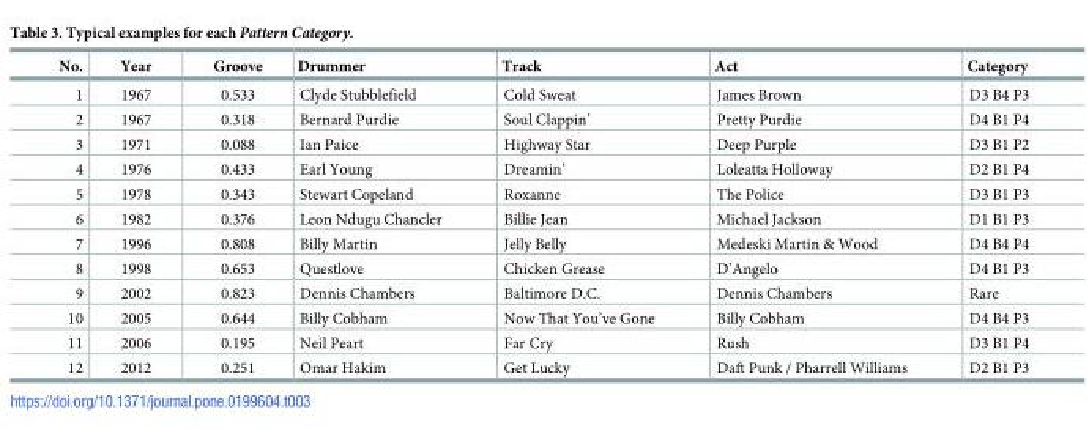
<table><thead><tr><td>No.</td><td>Year</td><td>Groove</td><td>Drummer</td><td>Track</td><td>Act</td><td>Category</td></tr></thead><tbody><tr><td>1</td><td>1967</td><td>0.533</td><td>Clyde Stubblefield</td><td>Cold Sweat</td><td>James Brown</td><td>D3 B4 P3</td></tr><tr><td>2</td><td>1967</td><td>0.318</td><td>Bernard Purdie</td><td>Soul Clappin’</td><td>Pretty Purdie</td><td>D4 B1 P4</td></tr><tr><td>3</td><td>1971</td><td>0.088</td><td>Ian Paice</td><td>Highway Star</td><td>Deep Purple</td><td>D3 B1 P2</td></tr><tr><td>4</td><td>1976</td><td>0.433</td><td>Earl Young</td><td>Dreamin’</td><td>Loleatta Holloway</td><td>D2 B1 P4</td></tr><tr><td>5</td><td>1978</td><td>0.343</td><td>Stewart Copeland</td><td>Roxanne</td><td>The Police</td><td>D3 B1 P3</td></tr><tr><td>6</td><td>1982</td><td>0.376</td><td>Leon Ndugu Chancler</td><td>Billie Jean</td><td>Michael Jackson</td><td>D1 B1 P3</td></tr><tr><td>7</td><td>1996</td><td>0.808</td><td>Billy Martin</td><td>Jelly Belly</td><td>Medeski Martin &amp; Wood</td><td>D4 B4 P4</td></tr><tr><td>8</td><td>1998</td><td>0.653</td><td>Questlove</td><td>Chicken Grease</td><td>D’Angelo</td><td>D4 B1 P3</td></tr><tr><td>9</td><td>2002</td><td>0.823</td><td>Dennis Chambers</td><td>Baltimore D.C.</td><td>Dennis Chambers</td><td>Rare</td></tr><tr><td>10</td><td>2005</td><td>0.644</td><td>Billy Cobham</td><td>Now That You’ve Gone</td><td>Billy Cobham</td><td>D4 B4 P3</td></tr><tr><td>11</td><td>2006</td><td>0.195</td><td>Neil Peart</td><td>Far Cry</td><td>Rush</td><td>D3 B1 P4</td></tr><tr><td>12</td><td>2012</td><td>0.251</td><td>Omar Hakim</td><td>Get Lucky</td><td>Daft Punk / Pharrell Williams</td><td>D2 B1 P3</td></tr></tbody></table>